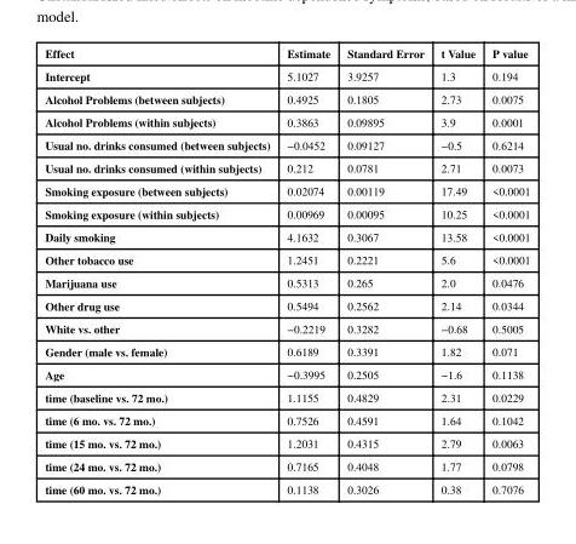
<table><thead><tr><td>Effect</td><td>Estimate</td><td>Standard Error</td><td>t Value</td><td>P value</td></tr></thead><tbody><tr><td>Intercept</td><td>5.1027</td><td>3.9257</td><td>1.3</td><td>0.194</td></tr><tr><td>Alcohol Problems (between subjects)</td><td>0.4925</td><td>0.1805</td><td>2.73</td><td>0.0075</td></tr><tr><td>Alcohol Problems (within subjects)</td><td>0.3863</td><td>0.09895</td><td>3.9</td><td>0.0001</td></tr><tr><td>Usual no. drinks consumed (between subjects)</td><td>−0.0452</td><td>0.09127</td><td>−0.5</td><td>0.6214</td></tr><tr><td>Usual no. drinks consumed (within subjects)</td><td>0.212</td><td>0.0781</td><td>2.71</td><td>0.0073</td></tr><tr><td>Smoking exposure (between subjects)</td><td>0.02074</td><td>0.00119</td><td>17.49</td><td>&lt;0.0001</td></tr><tr><td>Smoking exposure (within subjects)</td><td>0.00969</td><td>0.00095</td><td>10.25</td><td>&lt;0.0001</td></tr><tr><td>Daily smoking</td><td>4.1632</td><td>0.3067</td><td>13.58</td><td>&lt;0.0001</td></tr><tr><td>Other tobacco use</td><td>1.2451</td><td>0.2221</td><td>5.6</td><td>&lt;0.0001</td></tr><tr><td>Marijuana use</td><td>0.5313</td><td>0.265</td><td>2.0</td><td>0.0476</td></tr><tr><td>Other drug use</td><td>0.5494</td><td>0.2562</td><td>2.14</td><td>0.0344</td></tr><tr><td>White vs. other</td><td>−0.2219</td><td>0.3282</td><td>−0.68</td><td>0.5005</td></tr><tr><td>Gender (male vs. female)</td><td>0.6189</td><td>0.3391</td><td>1.82</td><td>0.071</td></tr><tr><td>Age</td><td>−0.3995</td><td>0.2505</td><td>−1.6</td><td>0.1138</td></tr><tr><td>time (baseline vs. 72 mo.)</td><td>1.1155</td><td>0.4829</td><td>2.31</td><td>0.0229</td></tr><tr><td>time (6 mo. vs. 72 mo.)</td><td>0.7526</td><td>0.4591</td><td>1.64</td><td>0.1042</td></tr><tr><td>time (15 mo. vs. 72 mo.)</td><td>1.2031</td><td>0.4315</td><td>2.79</td><td>0.0063</td></tr><tr><td>time (24 mo. vs. 72 mo.)</td><td>0.7165</td><td>0.4048</td><td>1.77</td><td>0.0798</td></tr><tr><td>time (60 mo. vs. 72 mo.)</td><td>0.1138</td><td>0.3026</td><td>0.38</td><td>0.7076</td></tr></tbody></table>